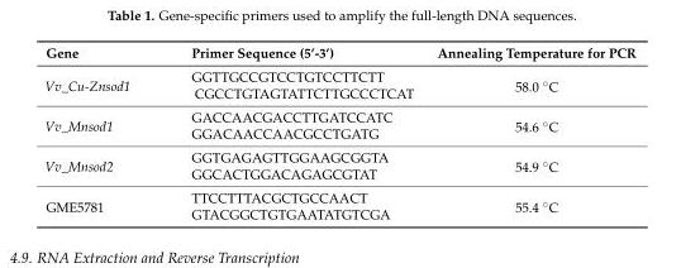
<table><thead><tr><td>Gene</td><td>Primer Sequence (5’-3’)</td><td>Annealing Temperature for PCR</td></tr></thead><tbody><tr><td rowspan="2">Vv_Cu-Znsod1</td><td>GGTTGCCGTCCTGTCCTTCTT</td><td rowspan="2">58.0 ˝C</td></tr><tr><td>CGCCTGTAGTATTCTTGCCCTCAT</td></tr><tr><td rowspan="2">Vv_Mnsod1</td><td>GACCAACGACCTTGATCCATC</td><td rowspan="2">54.6 ˝C</td></tr><tr><td>GGACAACCAACGCCTGATG</td></tr><tr><td rowspan="2">Vv_Mnsod2</td><td>GGTGAGAGTTGGAAGCGGTA</td><td rowspan="2">54.9 ˝C</td></tr><tr><td>GGCACTGGACAGAGCGTAT</td></tr><tr><td rowspan="2">GME5781</td><td>TTCCTTTACGCTGCCAACT</td><td rowspan="2">55.4 ˝C</td></tr><tr><td>GTACGGCTGTGAATATGTCGA</td></tr></tbody></table>